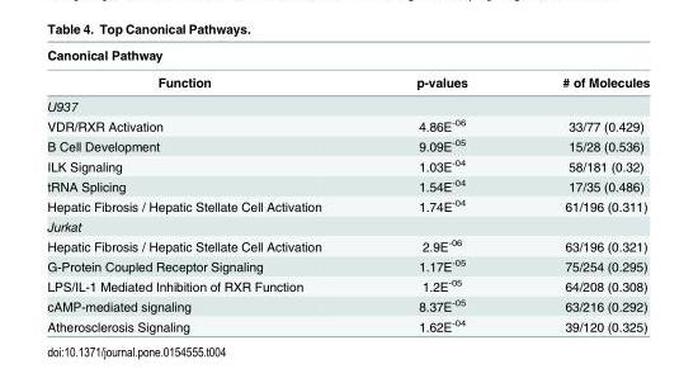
<table><thead><tr><td colspan="3">Canonical Pathway</td></tr><tr><td>Function</td><td>p-values</td><td># of Molecules</td></tr></thead><tbody><tr><td colspan="3">U937</td></tr><tr><td>VDR/RXR Activation</td><td>4.86E<sup>-06</sup></td><td>33/77 (0.429)</td></tr><tr><td>B Cell Development</td><td>9.09E<sup>-05</sup></td><td>15/28 (0.536)</td></tr><tr><td>ILK Signaling</td><td>1.03E<sup>-04</sup></td><td>58/181 (0.32)</td></tr><tr><td>tRNA Splicing</td><td>1.54E<sup>-04</sup></td><td>17/35 (0.486)</td></tr><tr><td>Hepatic Fibrosis / Hepatic Stellate Cell Activation</td><td>1.74E<sup>-04</sup></td><td>61/196 (0.311)</td></tr><tr><td colspan="3">Jurkat</td></tr><tr><td>Hepatic Fibrosis / Hepatic Stellate Cell Activation</td><td>2.9E<sup>-06</sup></td><td>63/196 (0.321)</td></tr><tr><td>G-Protein Coupled Receptor Signaling</td><td>1.17E<sup>-05</sup></td><td>75/254 (0.295)</td></tr><tr><td>LPS/IL-1 Mediated Inhibition of RXR Function</td><td>1.2E<sup>-05</sup></td><td>64/208 (0.308)</td></tr><tr><td>cAMP-mediated signaling</td><td>8.37E<sup>-05</sup></td><td>63/216 (0.292)</td></tr><tr><td>Atherosclerosis Signaling</td><td>1.62E<sup>-04</sup></td><td>39/120 (0.325)</td></tr></tbody></table>